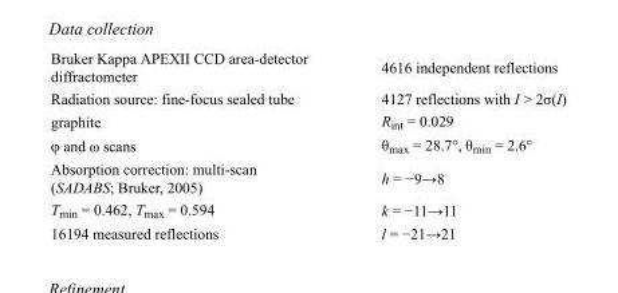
<table><tbody><tr><td>Bruker Kappa APEXII CCD area-detector diffractometer</td><td>4616 independent reflections</td></tr><tr><td>Radiation source: fine-focus sealed tube</td><td>4127 reflections with I &gt; 2σ(I)</td></tr><tr><td>graphite</td><td>R<sub>int</sub> = 0.029</td></tr><tr><td>φ and ω scans</td><td>θ<sub>max</sub> = 28.7°, θ<sub>min</sub> = 2.6°</td></tr><tr><td>Absorption correction: multi-scan (SADABS; Bruker, 2005)</td><td>h = −9→8</td></tr><tr><td>T<sub>min</sub> = 0.462, T<sub>max</sub> = 0.594</td><td>k = −11→11</td></tr><tr><td>16194 measured reflections</td><td>l = −21→21</td></tr></tbody></table>